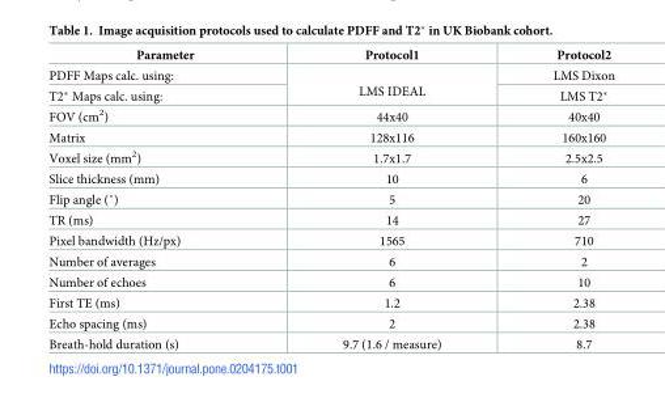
<table><thead><tr><td>Parameter</td><td>Protocol1</td><td>Protocol2</td></tr></thead><tbody><tr><td>PDFF Maps calc. using:</td><td rowspan="2">LMS IDEAL</td><td>LMS Dixon</td></tr><tr><td>T2* Maps calc. using:</td><td>LMS T2*</td></tr><tr><td>FOV (cm<sup>2</sup>)</td><td>44x40</td><td>40x40</td></tr><tr><td>Matrix</td><td>128x116</td><td>160x160</td></tr><tr><td>Voxel size (mm<sup>2</sup>)</td><td>1.7x1.7</td><td>2.5x2.5</td></tr><tr><td>Slice thickness (mm)</td><td>10</td><td>6</td></tr><tr><td>Flip angle (˚)</td><td>5</td><td>20</td></tr><tr><td>TR (ms)</td><td>14</td><td>27</td></tr><tr><td>Pixel bandwidth (Hz/px)</td><td>1565</td><td>710</td></tr><tr><td>Number of averages</td><td>6</td><td>2</td></tr><tr><td>Number of echoes</td><td>6</td><td>10</td></tr><tr><td>First TE (ms)</td><td>1.2</td><td>2.38</td></tr><tr><td>Echo spacing (ms)</td><td>2</td><td>2.38</td></tr><tr><td>Breath-hold duration (s)</td><td>9.7 (1.6 / measure)</td><td>8.7</td></tr></tbody></table>